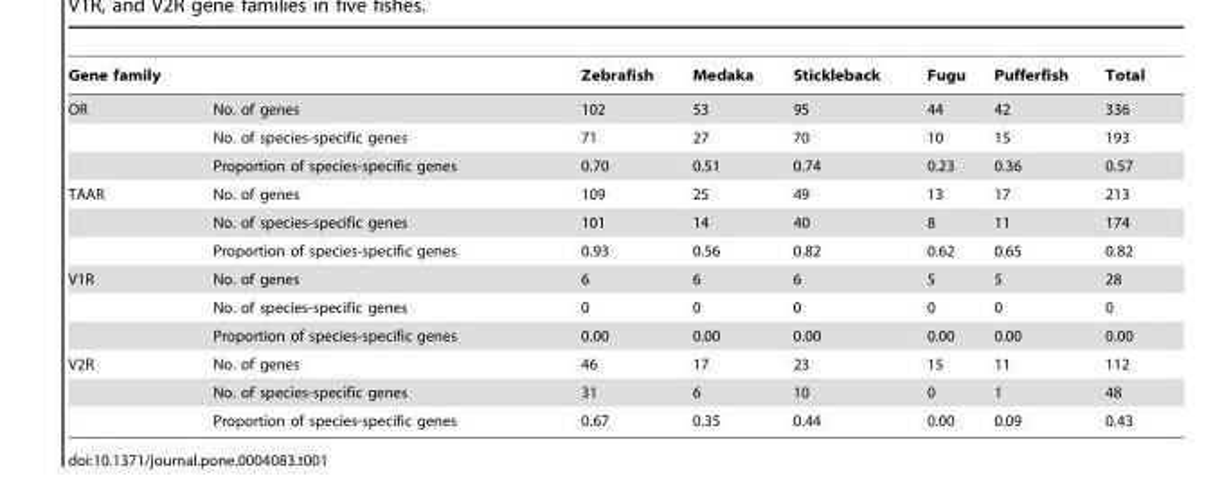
<table><thead><tr><td>Gene family</td><td></td><td>Zebrafish</td><td>Medaka</td><td>Stickleback</td><td>Fugu</td><td>Pufferfish</td><td>Total</td></tr></thead><tbody><tr><td rowspan="3">OR</td><td>No. of genes</td><td>102</td><td>53</td><td>95</td><td>44</td><td>42</td><td>336</td></tr><tr><td>No. of species-specific genes</td><td>71</td><td>27</td><td>70</td><td>10</td><td>15</td><td>193</td></tr><tr><td>Proportion of species-specific genes</td><td>0.70</td><td>0.51</td><td>0.74</td><td>0.23</td><td>0.36</td><td>0.57</td></tr><tr><td rowspan="3">TAAR</td><td>No. of genes</td><td>109</td><td>25</td><td>49</td><td>13</td><td>17</td><td>213</td></tr><tr><td>No. of species-specific genes</td><td>101</td><td>14</td><td>40</td><td>8</td><td>11</td><td>174</td></tr><tr><td>Proportion of species-specific genes</td><td>0.93</td><td>0.56</td><td>0.82</td><td>0.62</td><td>0.65</td><td>0.82</td></tr><tr><td rowspan="3">V1R</td><td>No. of genes</td><td>6</td><td>6</td><td>6</td><td>5</td><td>5</td><td>28</td></tr><tr><td>No. of species-specific genes</td><td>0</td><td>0</td><td>0</td><td>0</td><td>0</td><td>0</td></tr><tr><td>Proportion of species-specific genes</td><td>0.00</td><td>0.00</td><td>0.00</td><td>0.00</td><td>0.00</td><td>0.00</td></tr><tr><td rowspan="3">V2R</td><td>No. of genes</td><td>46</td><td>17</td><td>23</td><td>15</td><td>11</td><td>112</td></tr><tr><td>No. of species-specific genes</td><td>31</td><td>6</td><td>10</td><td>0</td><td>1</td><td>48</td></tr><tr><td>Proportion of species-specific genes</td><td>0.67</td><td>0.35</td><td>0.44</td><td>0.00</td><td>0.09</td><td>0.43</td></tr></tbody></table>